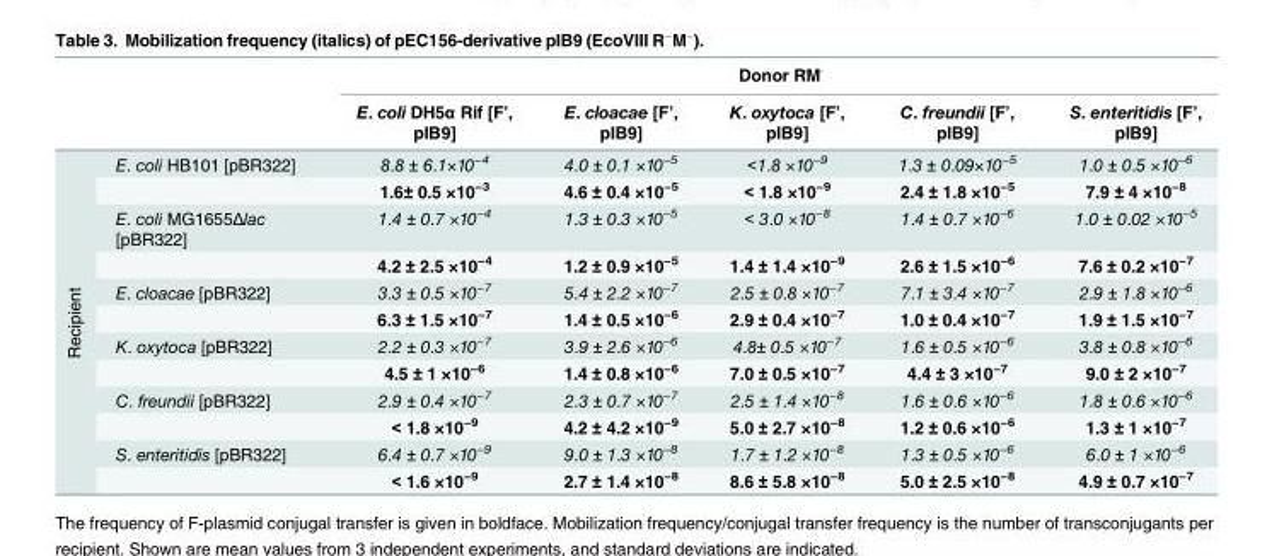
<table><thead><tr><td rowspan="2"></td><td rowspan="2"></td><td colspan="5">Donor R¯M¯</td></tr><tr><td>E. coli DH5α Rif [F’, pIB9]</td><td>E. cloacae [F’, pIB9]</td><td>K. oxytoca [F’, pIB9]</td><td>C. freundii [F’, pIB9]</td><td>S. enteritidis [F’, pIB9]</td></tr></thead><tbody><tr><td rowspan="12">Recipient</td><td>E. coli HB101 [pBR322]</td><td>8.8 ± 6.1×10<sup>−4</sup></td><td>4.0 ± 0.1 ×10<sup>−5</sup></td><td>&lt;1.8 ×10<sup>−9</sup></td><td>1.3 ± 0.09×10<sup>−5</sup></td><td>1.0 ± 0.5 ×10<sup>−6</sup></td></tr><tr><td></td><td>1.6± 0.5 ×10<sup>−3</sup></td><td>4.6 ± 0.4 ×10<sup>−5</sup></td><td>&lt; 1.8 ×10<sup>−9</sup></td><td>2.4 ± 1.8 ×10<sup>−5</sup></td><td>7.9 ± 4 ×10<sup>−8</sup></td></tr><tr><td>E. coli MG1655Δlac [pBR322]</td><td>1.4 ± 0.7 ×10<sup>−4</sup></td><td>1.3 ± 0.3 ×10<sup>−5</sup></td><td>&lt; 3.0 ×10<sup>−8</sup></td><td>1.4 ± 0.7 ×10<sup>−6</sup></td><td>1.0 ± 0.02 ×10<sup>−5</sup></td></tr><tr><td></td><td>4.2 ± 2.5 ×10<sup>−4</sup></td><td>1.2 ± 0.9 ×10<sup>−5</sup></td><td>1.4 ± 1.4 ×10<sup>−9</sup></td><td>2.6 ± 1.5 ×10<sup>−6</sup></td><td>7.6 ± 0.2 ×10<sup>−7</sup></td></tr><tr><td>E. cloacae [pBR322]</td><td>3.3 ± 0.5 ×10<sup>−7</sup></td><td>5.4 ± 2.2 ×10<sup>−7</sup></td><td>2.5 ± 0.8 ×10<sup>−7</sup></td><td>7.1 ± 3.4 ×10<sup>−7</sup></td><td>2.9 ± 1.8 ×10<sup>−6</sup></td></tr><tr><td></td><td>6.3 ± 1.5 ×10<sup>−7</sup></td><td>1.4 ± 0.5 ×10<sup>−6</sup></td><td>2.9 ± 0.4 ×10<sup>−7</sup></td><td>1.0 ± 0.4 ×10<sup>−7</sup></td><td>1.9 ± 1.5 ×10<sup>−7</sup></td></tr><tr><td>K. oxytoca [pBR322]</td><td>2.2 ± 0.3 ×10<sup>−7</sup></td><td>3.9 ± 2.6 ×10<sup>−6</sup></td><td>4.8± 0.5 ×10<sup>−7</sup></td><td>1.6 ± 0.5 ×10<sup>−6</sup></td><td>3.8 ± 0.8 ×10<sup>−6</sup></td></tr><tr><td></td><td>4.5 ± 1 ×10<sup>−6</sup></td><td>1.4 ± 0.8 ×10<sup>−6</sup></td><td>7.0 ± 0.5 ×10<sup>−7</sup></td><td>4.4 ± 3 ×10<sup>−7</sup></td><td>9.0 ± 2 ×10<sup>−7</sup></td></tr><tr><td>C. freundii [pBR322]</td><td>2.9 ± 0.4 ×10<sup>−7</sup></td><td>2.3 ± 0.7 ×10<sup>−7</sup></td><td>2.5 ± 1.4 ×10<sup>−8</sup></td><td>1.6 ± 0.6 ×10<sup>−6</sup></td><td>1.8 ± 0.6 ×10<sup>−6</sup></td></tr><tr><td></td><td>&lt; 1.8 ×10<sup>−9</sup></td><td>4.2 ± 4.2 ×10<sup>−9</sup></td><td>5.0 ± 2.7 ×10<sup>−8</sup></td><td>1.2 ± 0.6 ×10<sup>−6</sup></td><td>1.3 ± 1 ×10<sup>−7</sup></td></tr><tr><td>S. enteritidis [pBR322]</td><td>6.4 ± 0.7 ×10<sup>−9</sup></td><td>9.0 ± 1.3 ×10<sup>−8</sup></td><td>1.7 ± 1.2 ×10<sup>−8</sup></td><td>1.3 ± 0.5 ×10<sup>−6</sup></td><td>6.0 ± 1 ×10<sup>−6</sup></td></tr><tr><td></td><td>&lt; 1.6 ×10<sup>−9</sup></td><td>2.7 ± 1.4 ×10<sup>−8</sup></td><td>8.6 ± 5.8 ×10<sup>−8</sup></td><td>5.0 ± 2.5 ×10<sup>−8</sup></td><td>4.9 ± 0.7 ×10<sup>−7</sup></td></tr></tbody></table>